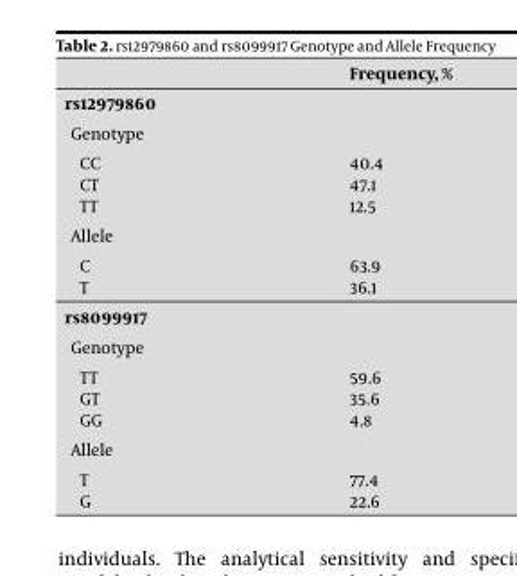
<table><thead><tr><td></td><td>Frequency, %</td></tr></thead><tbody><tr><td colspan="2">rs12979860</td></tr><tr><td colspan="2">Genotype</td></tr><tr><td>CC</td><td>40.4</td></tr><tr><td>CT</td><td>47.1</td></tr><tr><td>TT</td><td>12.5</td></tr><tr><td colspan="2">Allele</td></tr><tr><td>C</td><td>63.9</td></tr><tr><td>T</td><td>36.1</td></tr><tr><td colspan="2">rs8099917</td></tr><tr><td colspan="2">Genotype</td></tr><tr><td>TT</td><td>59.6</td></tr><tr><td>GT</td><td>35.6</td></tr><tr><td>GG</td><td>4.8</td></tr><tr><td colspan="2">Allele</td></tr><tr><td>T</td><td>77.4</td></tr><tr><td>G</td><td>22.6</td></tr></tbody></table>